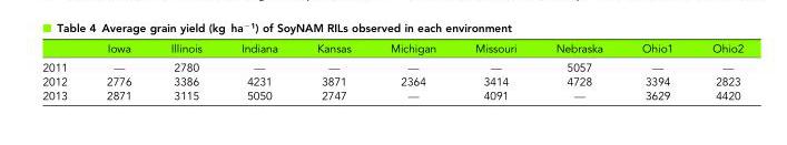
<table><thead><tr><td></td><td>Iowa</td><td>Illinois</td><td>Indiana</td><td>Kansas</td><td>Michigan</td><td>Missouri</td><td>Nebraska</td><td>Ohio1</td><td>Ohio2</td></tr></thead><tbody><tr><td>2011</td><td>—</td><td>2780</td><td>—</td><td>—</td><td>—</td><td>—</td><td>5057</td><td>—</td><td>—</td></tr><tr><td>2012</td><td>2776</td><td>3386</td><td>4231</td><td>3871</td><td>2364</td><td>3414</td><td>4728</td><td>3394</td><td>2823</td></tr><tr><td>2013</td><td>2871</td><td>3115</td><td>5050</td><td>2747</td><td>—</td><td>4091</td><td>—</td><td>3629</td><td>4420</td></tr></tbody></table>